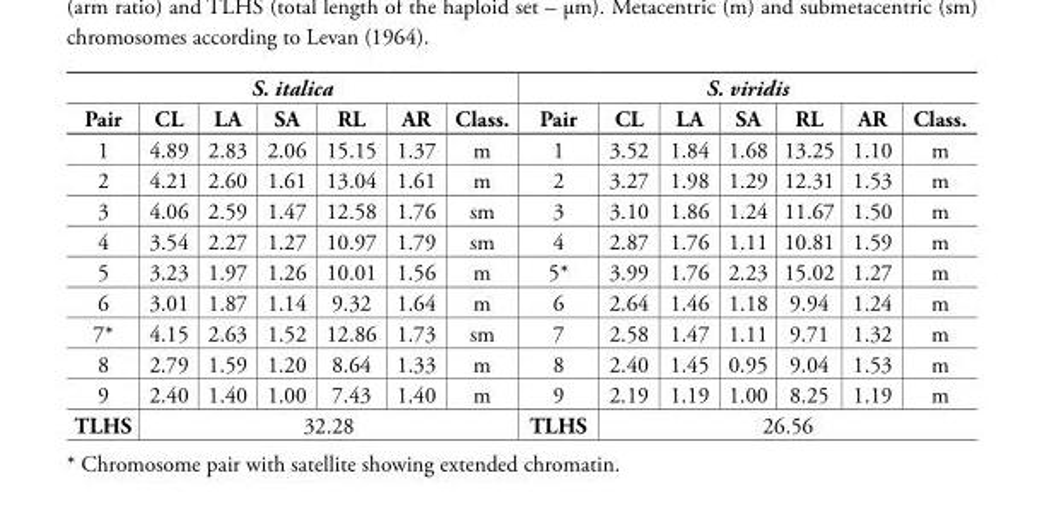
<table><thead><tr><td colspan="7">S. italica</td><td colspan="7">S. viridis</td></tr><tr><td>Pair</td><td>CL</td><td>LA</td><td>SA</td><td>RL</td><td>AR</td><td>Class.</td><td>Pair</td><td>CL</td><td>LA</td><td>SA</td><td>RL</td><td>AR</td><td>Class.</td></tr></thead><tbody><tr><td>1</td><td>4.89</td><td>2.83</td><td>2.06</td><td>15.15</td><td>1.37</td><td>m</td><td>1</td><td>3.52</td><td>1.84</td><td>1.68</td><td>13.25</td><td>1.10</td><td>m</td></tr><tr><td>2</td><td>4.21</td><td>2.60</td><td>1.61</td><td>13.04</td><td>1.61</td><td>m</td><td>2</td><td>3.27</td><td>1.98</td><td>1.29</td><td>12.31</td><td>1.53</td><td>m</td></tr><tr><td>3</td><td>4.06</td><td>2.59</td><td>1.47</td><td>12.58</td><td>1.76</td><td>sm</td><td>3</td><td>3.10</td><td>1.86</td><td>1.24</td><td>11.67</td><td>1.50</td><td>m</td></tr><tr><td>4</td><td>3.54</td><td>2.27</td><td>1.27</td><td>10.97</td><td>1.79</td><td>sm</td><td>4</td><td>2.87</td><td>1.76</td><td>1.11</td><td>10.81</td><td>1.59</td><td>m</td></tr><tr><td>5</td><td>3.23</td><td>1.97</td><td>1.26</td><td>10.01</td><td>1.56</td><td>m</td><td>5*</td><td>3.99</td><td>1.76</td><td>2.23</td><td>15.02</td><td>1.27</td><td>m</td></tr><tr><td>6</td><td>3.01</td><td>1.87</td><td>1.14</td><td>9.32</td><td>1.64</td><td>m</td><td>6</td><td>2.64</td><td>1.46</td><td>1.18</td><td>9.94</td><td>1.24</td><td>m</td></tr><tr><td>7*</td><td>4.15</td><td>2.63</td><td>1.52</td><td>12.86</td><td>1.73</td><td>sm</td><td>7</td><td>2.58</td><td>1.47</td><td>1.11</td><td>9.71</td><td>1.32</td><td>m</td></tr><tr><td>8</td><td>2.79</td><td>1.59</td><td>1.20</td><td>8.64</td><td>1.33</td><td>m</td><td>8</td><td>2.40</td><td>1.45</td><td>0.95</td><td>9.04</td><td>1.53</td><td>m</td></tr><tr><td>9</td><td>2.40</td><td>1.40</td><td>1.00</td><td>7.43</td><td>1.40</td><td>m</td><td>9</td><td>2.19</td><td>1.19</td><td>1.00</td><td>8.25</td><td>1.19</td><td>m</td></tr><tr><td>TLHS</td><td colspan="6">32.28</td><td>TLHS</td><td colspan="6">26.56</td></tr></tbody></table>